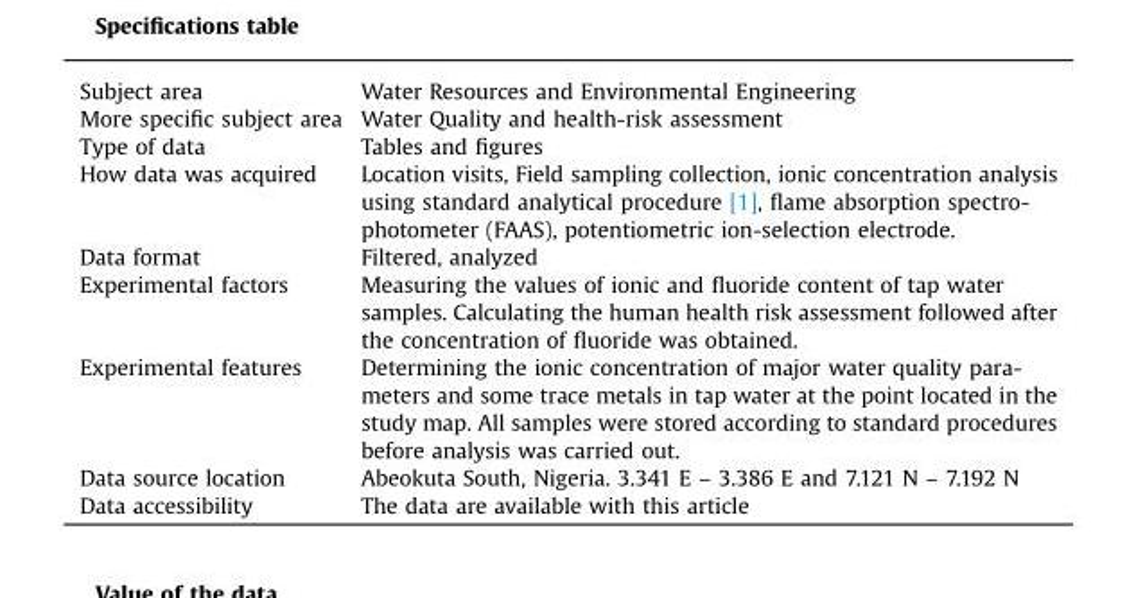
<table><tbody><tr><td>Subject area</td><td>Water Resources and Environmental Engineering</td></tr><tr><td>More specific subject area</td><td>Water Quality and health-risk assessment</td></tr><tr><td>Type of data</td><td>Tables and figures</td></tr><tr><td>How data was acquired</td><td>Location visits, Field sampling collection, ionic concentration analysis using standard analytical procedure [1], flame absorption spectro- photometer (FAAS), potentiometric ion-selection electrode.</td></tr><tr><td>Data format</td><td>Filtered, analyzed</td></tr><tr><td>Experimental factors</td><td>Measuring the values of ionic and fluoride content of tap water samples. Calculating the human health risk assessment followed after the concentration of fluoride was obtained.</td></tr><tr><td>Experimental features</td><td>Determining the ionic concentration of major water quality para- meters and some trace metals in tap water at the point located in the study map. All samples were stored according to standard procedures before analysis was carried out.</td></tr><tr><td>Data source location</td><td>Abeokuta South, Nigeria. 3.341 E – 3.386 E and 7.121 N – 7.192 N</td></tr><tr><td>Data accessibility</td><td>The data are available with this article</td></tr></tbody></table>